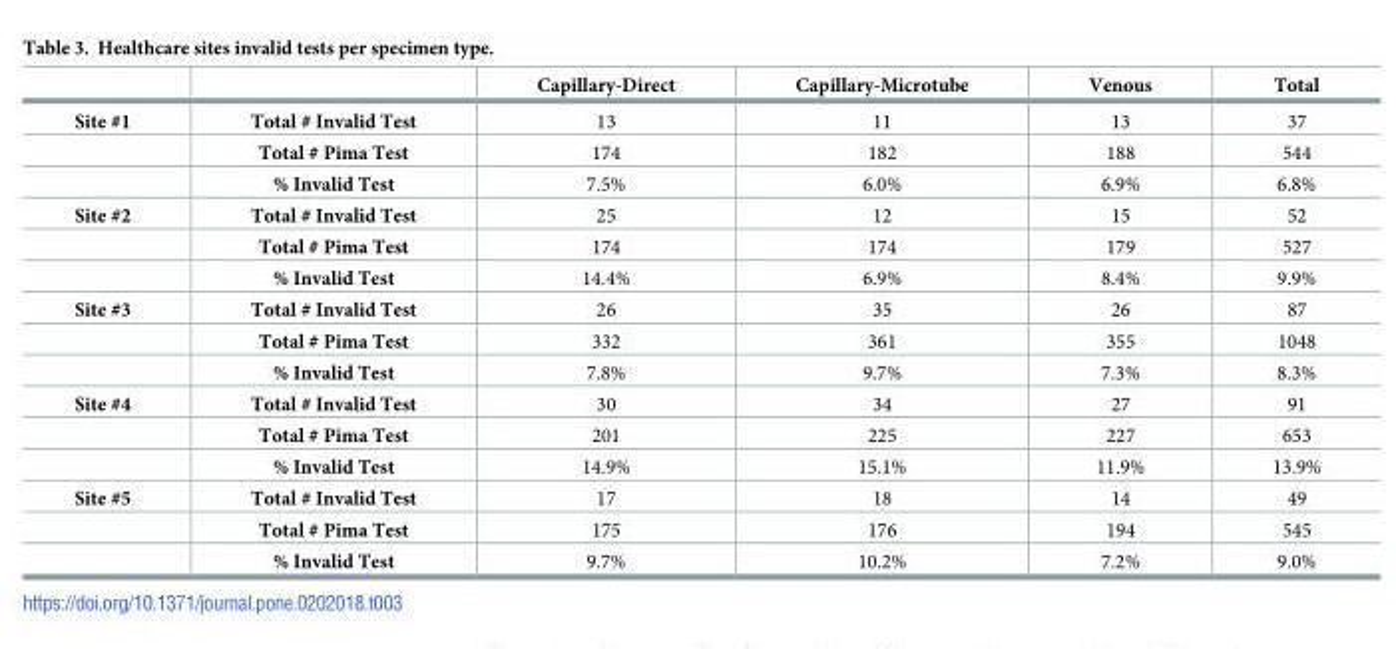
<table><thead><tr><td></td><td></td><td>Capillary-Direct</td><td>Capillary-Microtube</td><td>Venous</td><td>Total</td></tr></thead><tbody><tr><td rowspan="3">Site #1</td><td>Total # Invalid Test</td><td>13</td><td>11</td><td>13</td><td>37</td></tr><tr><td>Total # Pima Test</td><td>174</td><td>182</td><td>188</td><td>544</td></tr><tr><td>% Invalid Test</td><td>7.5%</td><td>6.0%</td><td>6.9%</td><td>6.8%</td></tr><tr><td rowspan="3">Site #2</td><td>Total # Invalid Test</td><td>25</td><td>12</td><td>15</td><td>52</td></tr><tr><td>Total # Pima Test</td><td>174</td><td>174</td><td>179</td><td>527</td></tr><tr><td>% Invalid Test</td><td>14.4%</td><td>6.9%</td><td>8.4%</td><td>9.9%</td></tr><tr><td rowspan="3">Site #3</td><td>Total # Invalid Test</td><td>26</td><td>35</td><td>26</td><td>87</td></tr><tr><td>Total # Pima Test</td><td>332</td><td>361</td><td>355</td><td>1048</td></tr><tr><td>% Invalid Test</td><td>7.8%</td><td>9.7%</td><td>7.3%</td><td>8.3%</td></tr><tr><td rowspan="3">Site #4</td><td>Total # Invalid Test</td><td>30</td><td>34</td><td>27</td><td>91</td></tr><tr><td>Total # Pima Test</td><td>201</td><td>225</td><td>227</td><td>653</td></tr><tr><td>% Invalid Test</td><td>14.9%</td><td>15.1%</td><td>11.9%</td><td>13.9%</td></tr><tr><td rowspan="3">Site #5</td><td>Total # Invalid Test</td><td>17</td><td>18</td><td>14</td><td>49</td></tr><tr><td>Total # Pima Test</td><td>175</td><td>176</td><td>194</td><td>545</td></tr><tr><td>% Invalid Test</td><td>9.7%</td><td>10.2%</td><td>7.2%</td><td>9.0%</td></tr></tbody></table>